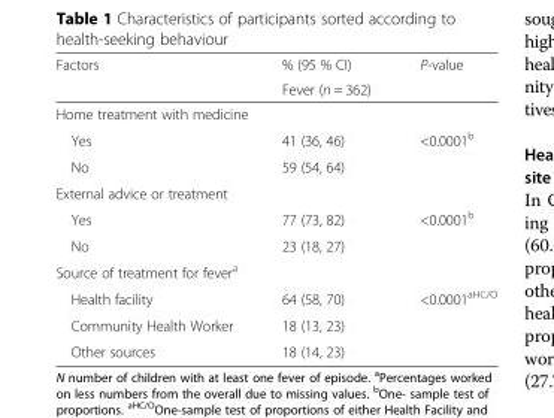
<table><thead><tr><td rowspan="2">Factors</td><td rowspan="2">% (95 % CI) Fever (n = 362)</td><td rowspan="2">P-value</td></tr><tr></tr></thead><tbody><tr><td colspan="3">Home treatment with medicine</td></tr><tr><td>Yes</td><td>41 (36, 46)</td><td rowspan="2">&lt;0.0001<sup>b</sup></td></tr><tr><td>No</td><td>59 (54, 64)</td></tr><tr><td colspan="3">External advice or treatment</td></tr><tr><td>Yes</td><td>77 (73, 82)</td><td rowspan="2">&lt;0.0001<sup>b</sup></td></tr><tr><td>No</td><td>23 (18, 27)</td></tr><tr><td colspan="3">Source of treatment for fever<sup>a</sup></td></tr><tr><td>Health facility</td><td>64 (58, 70)</td><td rowspan="3">&lt;0.0001<sup>aHC/O</sup></td></tr><tr><td>Community Health Worker</td><td>18 (13, 23)</td></tr><tr><td>Other sources</td><td>18 (14, 23)</td></tr></tbody></table>